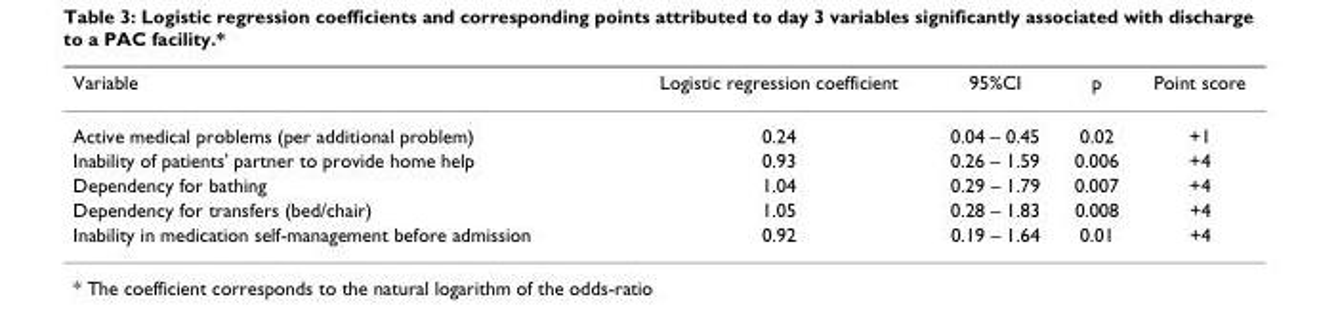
<table><thead><tr><td>Variable</td><td>Logistic regression coefficient</td><td>95%CI</td><td>p</td><td>Point score</td></tr></thead><tbody><tr><td>Active medical problems (per additional problem)</td><td>0.24</td><td>0.04 – 0.45</td><td>0.02</td><td>+1</td></tr><tr><td>Inability of patients&#x27; partner to provide home help</td><td>0.93</td><td>0.26 – 1.59</td><td>0.006</td><td>+4</td></tr><tr><td>Dependency for bathing</td><td>1.04</td><td>0.29 – 1.79</td><td>0.007</td><td>+4</td></tr><tr><td>Dependency for transfers (bed/chair)</td><td>1.05</td><td>0.28 – 1.83</td><td>0.008</td><td>+4</td></tr><tr><td>Inability in medication self-management before admission</td><td>0.92</td><td>0.19 – 1.64</td><td>0.01</td><td>+4</td></tr></tbody></table>